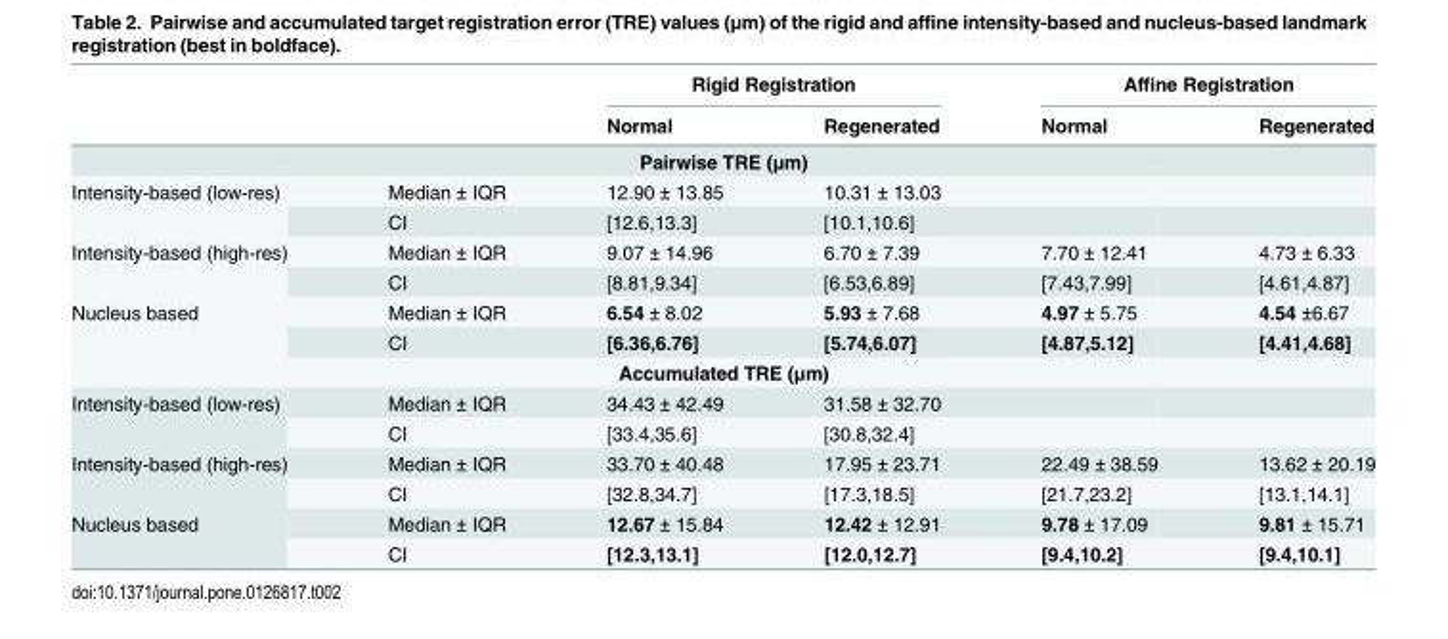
<table><thead><tr><td rowspan="2"></td><td rowspan="2"></td><td colspan="2">Rigid Registration</td><td colspan="2">Affine Registration</td></tr><tr><td>Normal</td><td>Regenerated</td><td>Normal</td><td>Regenerated</td></tr></thead><tbody><tr><td colspan="6">Pairwise TRE (μm)</td></tr><tr><td rowspan="2">Intensity-based (low-res)</td><td>Median ± IQR</td><td>12.90 ± 13.85</td><td>10.31 ± 13.03</td><td></td><td></td></tr><tr><td>CI</td><td>[12.6,13.3]</td><td>[10.1,10.6]</td><td></td><td></td></tr><tr><td rowspan="2">Intensity-based (high-res)</td><td>Median ± IQR</td><td>9.07 ± 14.96</td><td>6.70 ± 7.39</td><td>7.70 ± 12.41</td><td>4.73 ± 6.33</td></tr><tr><td>CI</td><td>[8.81,9.34]</td><td>[6.53,6.89]</td><td>[7.43,7.99]</td><td>[4.61,4.87]</td></tr><tr><td rowspan="2">Nucleus based</td><td>Median ± IQR</td><td>6.54 ± 8.02</td><td>5.93 ± 7.68</td><td>4.97 ± 5.75</td><td>4.54 ±6.67</td></tr><tr><td>CI</td><td>[6.36,6.76]</td><td>[5.74,6.07]</td><td>[4.87,5.12]</td><td>[4.41,4.68]</td></tr><tr><td colspan="6">Accumulated TRE (μm)</td></tr><tr><td rowspan="2">Intensity-based (low-res)</td><td>Median ± IQR</td><td>34.43 ± 42.49</td><td>31.58 ± 32.70</td><td></td><td></td></tr><tr><td>CI</td><td>[33.4,35.6]</td><td>[30.8,32.4]</td><td></td><td></td></tr><tr><td rowspan="2">Intensity-based (high-res)</td><td>Median ± IQR</td><td>33.70 ± 40.48</td><td>17.95 ± 23.71</td><td>22.49 ± 38.59</td><td>13.62 ± 20.19</td></tr><tr><td>CI</td><td>[32.8,34.7]</td><td>[17.3,18.5]</td><td>[21.7,23.2]</td><td>[13.1,14.1]</td></tr><tr><td rowspan="2">Nucleus based</td><td>Median ± IQR</td><td>12.67 ± 15.84</td><td>12.42 ± 12.91</td><td>9.78 ± 17.09</td><td>9.81 ± 15.71</td></tr><tr><td>CI</td><td>[12.3,13.1]</td><td>[12.0,12.7]</td><td>[9.4,10.2]</td><td>[9.4,10.1]</td></tr></tbody></table>